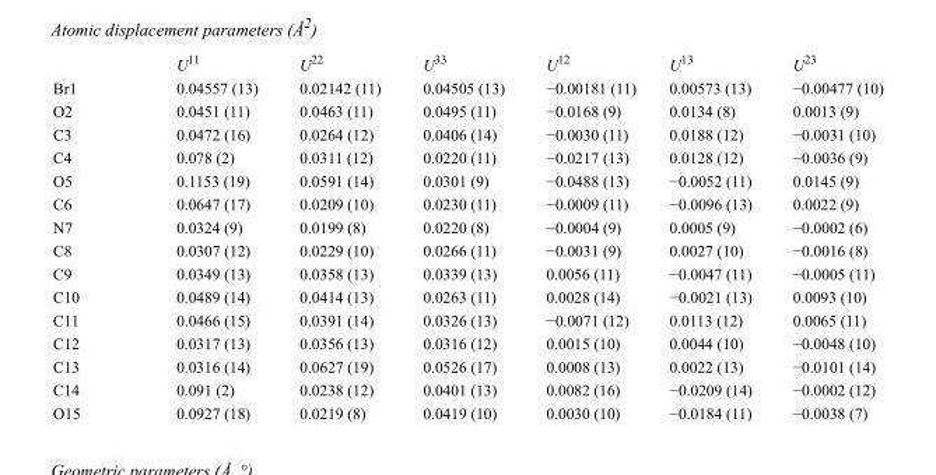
<table><thead><tr><td></td><td>U<sup>11</sup></td><td>U<sup>22</sup></td><td>U<sup>33</sup></td><td>U<sup>12</sup></td><td>U<sup>13</sup></td><td>U<sup>23</sup></td></tr></thead><tbody><tr><td>Br1</td><td>0.04557 (13)</td><td>0.02142 (11)</td><td>0.04505 (13)</td><td>−0.00181 (11)</td><td>0.00573 (13)</td><td>−0.00477 (10)</td></tr><tr><td>O2</td><td>0.0451 (11)</td><td>0.0463 (11)</td><td>0.0495 (11)</td><td>−0.0168 (9)</td><td>0.0134 (8)</td><td>0.0013 (9)</td></tr><tr><td>C3</td><td>0.0472 (16)</td><td>0.0264 (12)</td><td>0.0406 (14)</td><td>−0.0030 (11)</td><td>0.0188 (12)</td><td>−0.0031 (10)</td></tr><tr><td>C4</td><td>0.078 (2)</td><td>0.0311 (12)</td><td>0.0220 (11)</td><td>−0.0217 (13)</td><td>0.0128 (12)</td><td>−0.0036 (9)</td></tr><tr><td>O5</td><td>0.1153 (19)</td><td>0.0591 (14)</td><td>0.0301 (9)</td><td>−0.0488 (13)</td><td>−0.0052 (11)</td><td>0.0145 (9)</td></tr><tr><td>C6</td><td>0.0647 (17)</td><td>0.0209 (10)</td><td>0.0230 (11)</td><td>−0.0009 (11)</td><td>−0.0096 (13)</td><td>0.0022 (9)</td></tr><tr><td>N7</td><td>0.0324 (9)</td><td>0.0199 (8)</td><td>0.0220 (8)</td><td>−0.0004 (9)</td><td>0.0005 (9)</td><td>−0.0002 (6)</td></tr><tr><td>C8</td><td>0.0307 (12)</td><td>0.0229 (10)</td><td>0.0266 (11)</td><td>−0.0031 (9)</td><td>0.0027 (10)</td><td>−0.0016 (8)</td></tr><tr><td>C9</td><td>0.0349 (13)</td><td>0.0358 (13)</td><td>0.0339 (13)</td><td>0.0056 (11)</td><td>−0.0047 (11)</td><td>−0.0005 (11)</td></tr><tr><td>C10</td><td>0.0489 (14)</td><td>0.0414 (13)</td><td>0.0263 (11)</td><td>0.0028 (14)</td><td>−0.0021 (13)</td><td>0.0093 (10)</td></tr><tr><td>C11</td><td>0.0466 (15)</td><td>0.0391 (14)</td><td>0.0326 (13)</td><td>−0.0071 (12)</td><td>0.0113 (12)</td><td>0.0065 (11)</td></tr><tr><td>C12</td><td>0.0317 (13)</td><td>0.0356 (13)</td><td>0.0316 (12)</td><td>0.0015 (10)</td><td>0.0044 (10)</td><td>−0.0048 (10)</td></tr><tr><td>C13</td><td>0.0316 (14)</td><td>0.0627 (19)</td><td>0.0526 (17)</td><td>0.0008 (13)</td><td>0.0022 (13)</td><td>−0.0101 (14)</td></tr><tr><td>C14</td><td>0.091 (2)</td><td>0.0238 (12)</td><td>0.0401 (13)</td><td>0.0082 (16)</td><td>−0.0209 (14)</td><td>−0.0002 (12)</td></tr><tr><td>O15</td><td>0.0927 (18)</td><td>0.0219 (8)</td><td>0.0419 (10)</td><td>0.0030 (10)</td><td>−0.0184 (11)</td><td>−0.0038 (7)</td></tr></tbody></table>